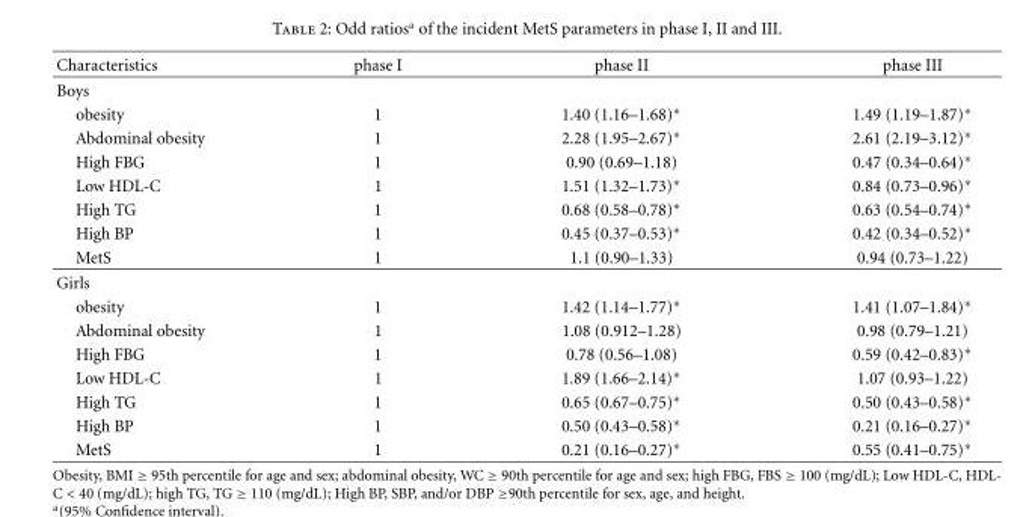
<table><thead><tr><td>Characteristics</td><td>phase I</td><td>phase II</td><td>phase III</td></tr></thead><tbody><tr><td colspan="4">Boys</td></tr><tr><td>obesity</td><td>1</td><td>1.40 (1.16–1.68)∗</td><td>1.49 (1.19–1.87)∗</td></tr><tr><td>Abdominal obesity</td><td>1</td><td>2.28 (1.95–2.67)∗</td><td>2.61 (2.19–3.12)∗</td></tr><tr><td>High FBG</td><td>1</td><td>0.90 (0.69–1.18)</td><td>0.47 (0.34–0.64)∗</td></tr><tr><td>Low HDL-C</td><td>1</td><td>1.51 (1.32–1.73)∗</td><td>0.84 (0.73–0.96)∗</td></tr><tr><td>High TG</td><td>1</td><td>0.68 (0.58–0.78)∗</td><td>0.63 (0.54–0.74)∗</td></tr><tr><td>High BP</td><td>1</td><td>0.45 (0.37–0.53)∗</td><td>0.42 (0.34–0.52)∗</td></tr><tr><td>MetS</td><td>1</td><td>1.1 (0.90–1.33)</td><td>0.94 (0.73–1.22)</td></tr><tr><td colspan="4">Girls</td></tr><tr><td>obesity</td><td>1</td><td>1.42 (1.14–1.77)∗</td><td>1.41 (1.07–1.84)∗</td></tr><tr><td>Abdominal obesity</td><td>1</td><td>1.08 (0.912–1.28)</td><td>0.98 (0.79–1.21)</td></tr><tr><td>High FBG</td><td>1</td><td>0.78 (0.56–1.08)</td><td>0.59 (0.42–0.83)∗</td></tr><tr><td>Low HDL-C</td><td>1</td><td>1.89 (1.66–2.14)∗</td><td>1.07 (0.93–1.22)</td></tr><tr><td>High TG</td><td>1</td><td>0.65 (0.67–0.75)∗</td><td>0.50 (0.43–0.58)∗</td></tr><tr><td>High BP</td><td>1</td><td>0.50 (0.43–0.58)∗</td><td>0.21 (0.16–0.27)∗</td></tr><tr><td>MetS</td><td>1</td><td>0.21 (0.16–0.27)∗</td><td>0.55 (0.41–0.75)∗</td></tr></tbody></table>